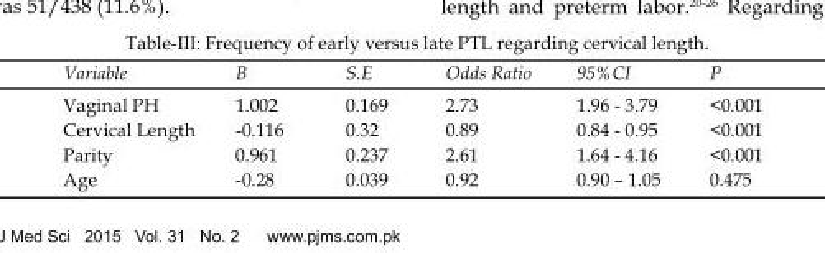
<table><thead><tr><td>Variable</td><td>B</td><td>S.E</td><td>Odds Ratio</td><td>95%CI</td><td>P</td></tr></thead><tbody><tr><td>Vaginal PH</td><td>1.002</td><td>0.169</td><td>2.73</td><td>1.96 - 3.79</td><td>&lt;0.001</td></tr><tr><td>Cervical Length</td><td>-0.116</td><td>0.32</td><td>0.89</td><td>0.84 - 0.95</td><td>&lt;0.001</td></tr><tr><td>Parity</td><td>0.961</td><td>0.237</td><td>2.61</td><td>1.64 - 4.16</td><td>&lt;0.001</td></tr><tr><td>Age</td><td>-0.28</td><td>0.039</td><td>0.92</td><td>0.90 – 1.05</td><td>0.475</td></tr></tbody></table>